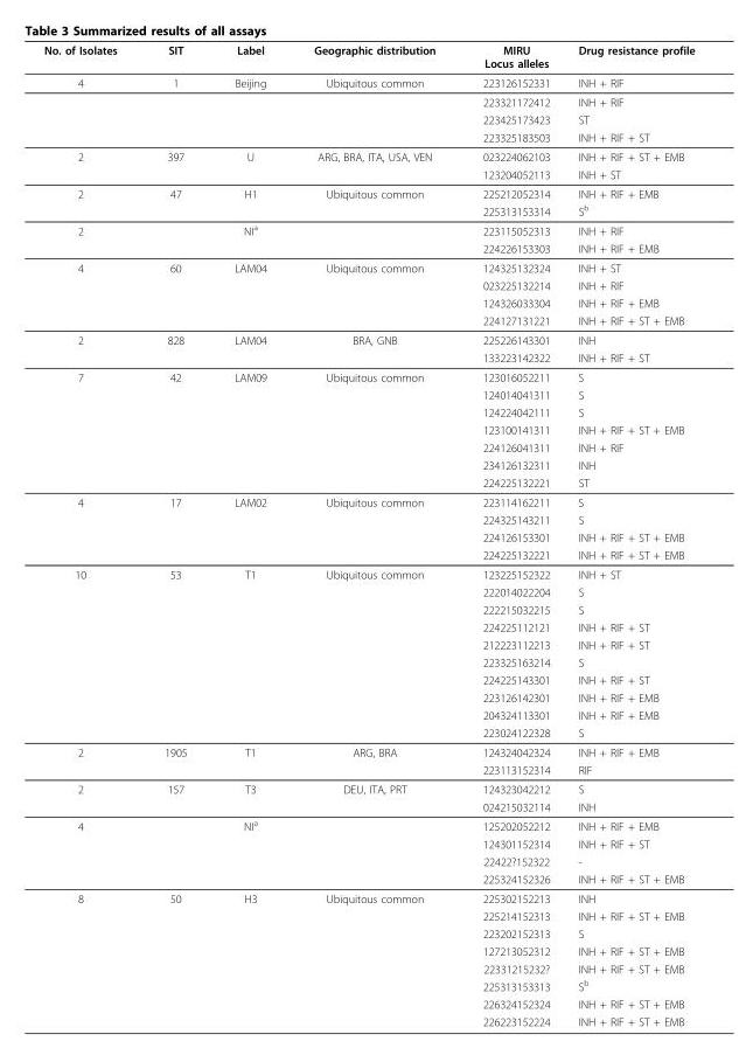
<table><thead><tr><td>No. of Isolates</td><td>SIT</td><td>Label</td><td>Geographic distribution</td><td>MIRU Locus alleles</td><td>Drug resistance profile</td></tr></thead><tbody><tr><td rowspan="4">4</td><td>1</td><td>Beijing</td><td>Ubiquitous common</td><td>223126152331</td><td>INH + RIF</td></tr><tr><td></td><td></td><td></td><td>223321172412</td><td>INH + RIF</td></tr><tr><td></td><td></td><td></td><td>223425173423</td><td>ST</td></tr><tr><td></td><td></td><td></td><td>223325183503</td><td>INH + RIF + ST</td></tr><tr><td rowspan="2">2</td><td>397</td><td>U</td><td>ARG, BRA, ITA, USA, VEN</td><td>023224062103</td><td>INH + RIF + ST + EMB</td></tr><tr><td></td><td></td><td></td><td>123204052113</td><td>INH + ST</td></tr><tr><td rowspan="2">2</td><td>47</td><td>H1</td><td>Ubiquitous common</td><td>225212052314</td><td>INH + RIF + EMB</td></tr><tr><td></td><td></td><td></td><td>225313153314</td><td>Sb</td></tr><tr><td rowspan="2">2</td><td></td><td>NIa</td><td></td><td>223115052313</td><td>INH + RIF</td></tr><tr><td></td><td></td><td></td><td>224226153303</td><td>INH + RIF + EMB</td></tr><tr><td rowspan="4">4</td><td>60</td><td>LAM04</td><td>Ubiquitous common</td><td>124325132324</td><td>INH + ST</td></tr><tr><td></td><td></td><td></td><td>023225132214</td><td>INH + RIF</td></tr><tr><td></td><td></td><td></td><td>124326033304</td><td>INH + RIF + EMB</td></tr><tr><td></td><td></td><td></td><td>224127131221</td><td>INH + RIF + ST + EMB</td></tr><tr><td rowspan="2">2</td><td>828</td><td>LAM04</td><td>BRA, GNB</td><td>225226143301</td><td>INH</td></tr><tr><td></td><td></td><td></td><td>133223142322</td><td>INH + RIF + ST</td></tr><tr><td rowspan="7">7</td><td>42</td><td>LAM09</td><td>Ubiquitous common</td><td>123016052211</td><td>S</td></tr><tr><td></td><td></td><td></td><td>124014041311</td><td>S</td></tr><tr><td></td><td></td><td></td><td>124224042111</td><td>S</td></tr><tr><td></td><td></td><td></td><td>123100141311</td><td>INH + RIF + ST + EMB</td></tr><tr><td></td><td></td><td></td><td>224126041311</td><td>INH + RIF</td></tr><tr><td></td><td></td><td></td><td>234126132311</td><td>INH</td></tr><tr><td></td><td></td><td></td><td>224225132221</td><td>ST</td></tr><tr><td rowspan="4">4</td><td>17</td><td>LAM02</td><td>Ubiquitous common</td><td>223114162211</td><td>S</td></tr><tr><td></td><td></td><td></td><td>224325143211</td><td>S</td></tr><tr><td></td><td></td><td></td><td>224126153301</td><td>INH + RIF + ST + EMB</td></tr><tr><td></td><td></td><td></td><td>224225132221</td><td>INH + RIF + ST + EMB</td></tr><tr><td rowspan="10">10</td><td>53</td><td>T1</td><td>Ubiquitous common</td><td>123225152322</td><td>INH + ST</td></tr><tr><td></td><td></td><td></td><td>222014022204</td><td>S</td></tr><tr><td></td><td></td><td></td><td>222215032215</td><td>S</td></tr><tr><td></td><td></td><td></td><td>224225112121</td><td>INH + RIF + ST</td></tr><tr><td></td><td></td><td></td><td>212223112213</td><td>INH + RIF + ST</td></tr><tr><td></td><td></td><td></td><td>223325163214</td><td>S</td></tr><tr><td></td><td></td><td></td><td>224225143301</td><td>INH + RIF + ST</td></tr><tr><td></td><td></td><td></td><td>223126142301</td><td>INH + RIF + EMB</td></tr><tr><td></td><td></td><td></td><td>204324113301</td><td>INH + RIF + EMB</td></tr><tr><td></td><td></td><td></td><td>223024122328</td><td>S</td></tr><tr><td rowspan="2">2</td><td>1905</td><td>T1</td><td>ARG, BRA</td><td>124324042324</td><td>INH + RIF + EMB</td></tr><tr><td></td><td></td><td></td><td>223113152314</td><td>RIF</td></tr><tr><td rowspan="2">2</td><td>157</td><td>T3</td><td>DEU, ITA, PRT</td><td>124323042212</td><td>S</td></tr><tr><td></td><td></td><td></td><td>024215032114</td><td>INH</td></tr><tr><td rowspan="4">4</td><td></td><td>NIa</td><td></td><td>125202052212</td><td>INH + RIF + EMB</td></tr><tr><td></td><td></td><td></td><td>124301152314</td><td>INH + RIF + ST</td></tr><tr><td></td><td></td><td></td><td>22422?152322</td><td>-</td></tr><tr><td></td><td></td><td></td><td>225324152326</td><td>INH + RIF + ST + EMB</td></tr><tr><td rowspan="8">8</td><td>50</td><td>H3</td><td>Ubiquitous common</td><td>225302152213</td><td>INH</td></tr><tr><td></td><td></td><td></td><td>225214152313</td><td>INH + RIF + ST + EMB</td></tr><tr><td></td><td></td><td></td><td>223202152313</td><td>S</td></tr><tr><td></td><td></td><td></td><td>127213052312</td><td>INH + RIF + ST + EMB</td></tr><tr><td></td><td></td><td></td><td>22331215232?</td><td>INH + RIF + ST + EMB</td></tr><tr><td></td><td></td><td></td><td>225313153313</td><td>Sb</td></tr><tr><td></td><td></td><td></td><td>226324152324</td><td>INH + RIF + ST + EMB</td></tr><tr><td></td><td></td><td></td><td>226223152224</td><td>INH + RIF + ST + EMB</td></tr></tbody></table>